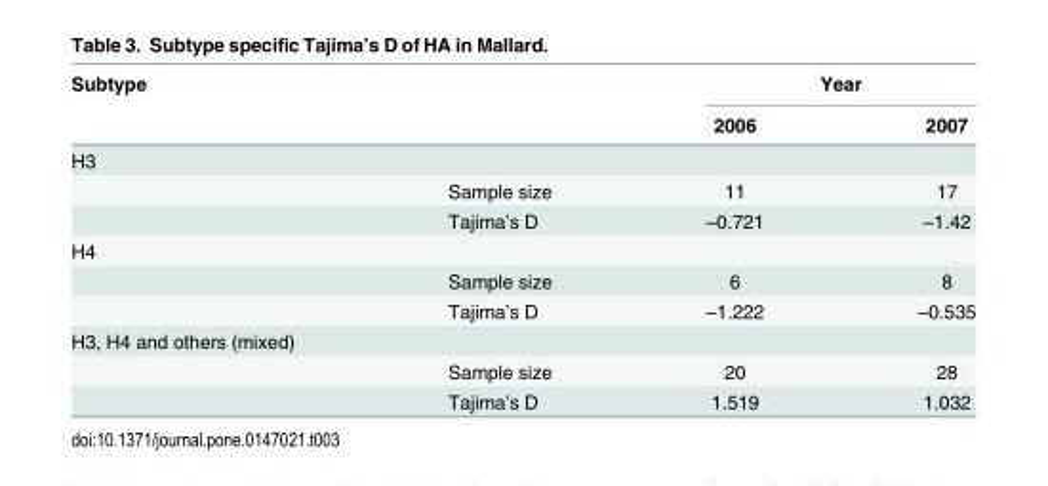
<table><thead><tr><td rowspan="2">Subtype</td><td rowspan="2"></td><td colspan="2">Year</td></tr><tr><td>2006</td><td>2007</td></tr></thead><tbody><tr><td colspan="4">H3</td></tr><tr><td></td><td>Sample size</td><td>11</td><td>17</td></tr><tr><td></td><td>Tajima’s D</td><td>–0.721</td><td>–1.42</td></tr><tr><td colspan="4">H4</td></tr><tr><td></td><td>Sample size</td><td>6</td><td>8</td></tr><tr><td></td><td>Tajima’s D</td><td>–1.222</td><td>–0.535</td></tr><tr><td colspan="4">H3, H4 and others (mixed)</td></tr><tr><td></td><td>Sample size</td><td>20</td><td>28</td></tr><tr><td></td><td>Tajima’s D</td><td>1.519</td><td>1.032</td></tr></tbody></table>